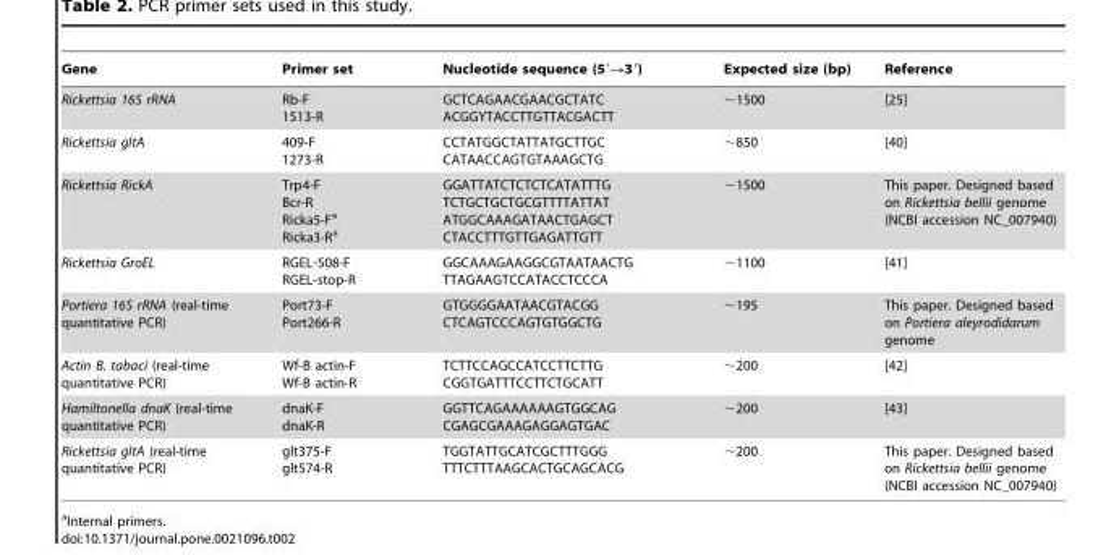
<table><thead><tr><td>Gene</td><td>Primer set</td><td>Nucleotide sequence (5′→3′)</td><td>Expected size (bp)</td><td>Reference</td></tr></thead><tbody><tr><td>Rickettsia 16S rRNA</td><td>Rb-F 1513-R</td><td>GCTCAGAACGAACGCTATC ACGGYTACCTTGTTACGACTT</td><td>∼1500</td><td>[25]</td></tr><tr><td>Rickettsia gltA</td><td>409-F 1273-R</td><td>CCTATGGCTATTATGCTTGC CATAACCAGTGTAAAGCTG</td><td>∼850</td><td>[40]</td></tr><tr><td>Rickettsia RickA</td><td>Trp4-F Bcr-R Ricka5-F<sup>a</sup> Ricka3-R<sup>a</sup></td><td>GGATTATCTCTCTCATATTTG TCTGCTGCTGCGTTTTATTAT ATGGCAAAGATAACTGAGCT CTACCTTTGTTGAGATTGTT</td><td>∼1500</td><td>This paper. Designed based on Rickettsia bellii genome (NCBI accession NC_007940)</td></tr><tr><td>Rickettsia GroEL</td><td>RGEL-508-F RGEL-stop-R</td><td>GGCAAAGAAGGCGTAATAACTG TTAGAAGTCCATACCTCCCA</td><td>∼1100</td><td>[41]</td></tr><tr><td>Portiera 16S rRNA (real-time quantitative PCR)</td><td>Port73-F Port266-R</td><td>GTGGGGAATAACGTACGG CTCAGTCCCAGTGTGGCTG</td><td>∼195</td><td>This paper. Designed based on Portiera aleyrodidarum genome</td></tr><tr><td>Actin B. tabaci (real-time quantitative PCR)</td><td>Wf-B actin-F Wf-B actin-R</td><td>TCTTCCAGCCATCCTTCTTG CGGTGATTTCCTTCTGCATT</td><td>∼200</td><td>[42]</td></tr><tr><td>Hamiltonella dnaK (real-time quantitative PCR)</td><td>dnaK-F dnaK-R</td><td>GGTTCAGAAAAAAGTGGCAG CGAGCGAAAGAGGAGTGAC</td><td>∼200</td><td>[43]</td></tr><tr><td>Rickettsia gltA (real-time quantitative PCR)</td><td>glt375-F glt574-R</td><td>TGGTATTGCATCGCTTTGGG TTTCTTTAAGCACTGCAGCACG</td><td>∼200</td><td>This paper. Designed based on Rickettsia bellii genome (NCBI accession NC_007940)</td></tr></tbody></table>